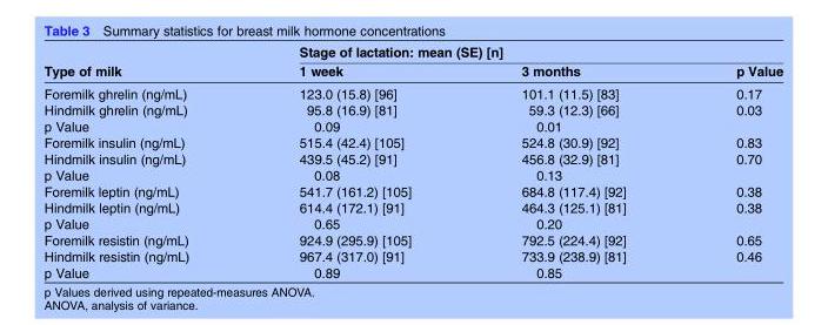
<table><thead><tr><td rowspan="2">Type of milk</td><td colspan="3">Stage of lactation: mean (SE) [n]</td></tr><tr><td>1 week</td><td>3 months</td><td>p Value</td></tr></thead><tbody><tr><td>Foremilk ghrelin (ng/mL)</td><td>123.0 (15.8) [96]</td><td>101.1 (11.5) [83]</td><td>0.17</td></tr><tr><td>Hindmilk ghrelin (ng/mL)</td><td>95.8 (16.9) [81]</td><td>59.3 (12.3) [66]</td><td>0.03</td></tr><tr><td>p Value</td><td>0.09</td><td>0.01</td><td></td></tr><tr><td>Foremilk insulin (ng/mL)</td><td>515.4 (42.4) [105]</td><td>524.8 (30.9) [92]</td><td>0.83</td></tr><tr><td>Hindmilk insulin (ng/mL)</td><td>439.5 (45.2) [91]</td><td>456.8 (32.9) [81]</td><td>0.70</td></tr><tr><td>p Value</td><td>0.08</td><td>0.13</td><td></td></tr><tr><td>Foremilk leptin (ng/mL)</td><td>541.7 (161.2) [105]</td><td>684.8 (117.4) [92]</td><td>0.38</td></tr><tr><td>Hindmilk leptin (ng/mL)</td><td>614.4 (172.1) [91]</td><td>464.3 (125.1) [81]</td><td>0.38</td></tr><tr><td>p Value</td><td>0.65</td><td>0.20</td><td></td></tr><tr><td>Foremilk resistin (ng/mL)</td><td>924.9 (295.9) [105]</td><td>792.5 (224.4) [92]</td><td>0.65</td></tr><tr><td>Hindmilk resistin (ng/mL)</td><td>967.4 (317.0) [91]</td><td>733.9 (238.9) [81]</td><td>0.46</td></tr><tr><td>p Value</td><td>0.89</td><td>0.85</td><td></td></tr></tbody></table>